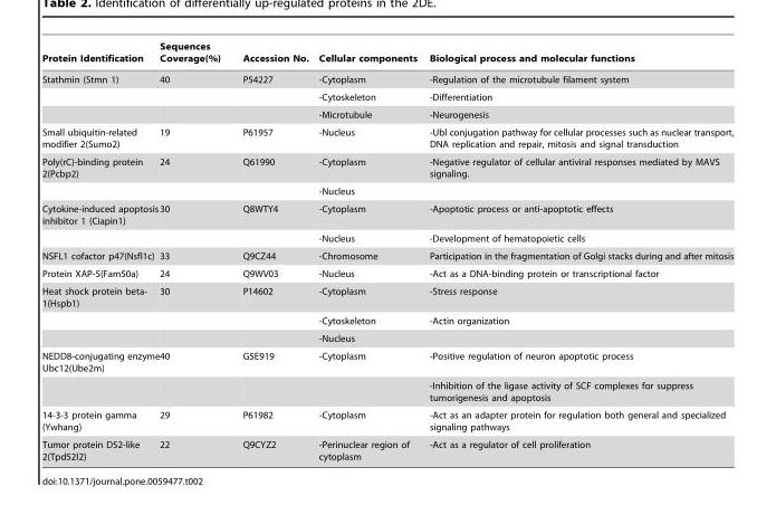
<table><thead><tr><td>Protein Identification</td><td>Sequences Coverage(%)</td><td>Accession No.</td><td>Cellular components</td><td>Biological process and molecular functions</td></tr></thead><tbody><tr><td rowspan="3">Stathmin (Stmn 1)</td><td>40</td><td>P54227</td><td>-Cytoplasm</td><td>-Regulation of the microtubule filament system</td></tr><tr><td></td><td></td><td>-Cytoskeleton</td><td>-Differentiation</td></tr><tr><td></td><td></td><td>-Microtubule</td><td>-Neurogenesis</td></tr><tr><td>Small ubiquitin-related modifier 2(Sumo2)</td><td>19</td><td>P61957</td><td>-Nucleus</td><td>-Ubl conjugation pathway for cellular processes such as nuclear transport, DNA replication and repair, mitosis and signal transduction</td></tr><tr><td rowspan="2">Poly(rC)-binding protein 2(Pcbp2)</td><td>24</td><td>Q61990</td><td>-Cytoplasm</td><td>-Negative regulator of cellular antiviral responses mediated by MAVS signaling.</td></tr><tr><td></td><td></td><td>-Nucleus</td><td></td></tr><tr><td rowspan="2">Cytokine-induced apoptosis inhibitor 1 (Ciapin1)</td><td>30</td><td>Q8WTY4</td><td>-Cytoplasm</td><td>-Apoptotic process or anti-apoptotic effects</td></tr><tr><td></td><td></td><td>-Nucleus</td><td>-Development of hematopoietic cells</td></tr><tr><td>NSFL1 cofactor p47(Nsfl1c)</td><td>33</td><td>Q9CZ44</td><td>-Chromosome</td><td>Participation in the fragmentation of Golgi stacks during and after mitosis</td></tr><tr><td>Protein XAP-5(Fam50a)</td><td>24</td><td>Q9WV03</td><td>-Nucleus</td><td>-Act as a DNA-binding protein or transcriptional factor</td></tr><tr><td rowspan="3">Heat shock protein beta- 1(Hspb1)</td><td>30</td><td>P14602</td><td>-Cytoplasm</td><td>-Stress response</td></tr><tr><td></td><td></td><td>-Cytoskeleton</td><td>-Actin organization</td></tr><tr><td></td><td></td><td>-Nucleus</td><td></td></tr><tr><td rowspan="2">NEDD8-conjugating enzyme Ubc12(Ube2m)</td><td>40</td><td>G5E919</td><td>-Cytoplasm</td><td>-Positive regulation of neuron apoptotic process</td></tr><tr><td></td><td></td><td></td><td>-Inhibition of the ligase activity of SCF complexes for suppress tumorigenesis and apoptosis</td></tr><tr><td>14-3-3 protein gamma (Ywhang)</td><td>29</td><td>P61982</td><td>-Cytoplasm</td><td>-Act as an adapter protein for regulation both general and specialized signaling pathways</td></tr><tr><td>Tumor protein D52-like 2(Tpd52l2)</td><td>22</td><td>Q9CYZ2</td><td>-Perinuclear region of cytoplasm</td><td>-Act as a regulator of cell proliferation</td></tr></tbody></table>